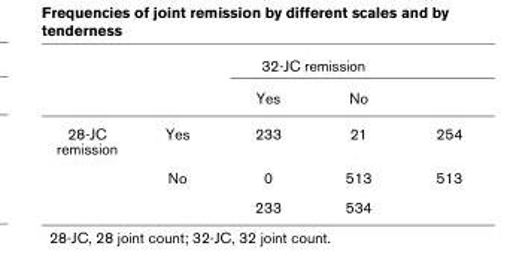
<table><thead><tr><td rowspan="2"></td><td rowspan="2"></td><td colspan="2">32-JC remission</td><td rowspan="2"></td></tr><tr><td>Yes</td><td>No</td></tr></thead><tbody><tr><td rowspan="3">28-JC remission</td><td>Yes</td><td>233</td><td>21</td><td>254</td></tr><tr><td>No</td><td>0</td><td>513</td><td>513</td></tr><tr><td></td><td>233</td><td>534</td><td></td></tr></tbody></table>